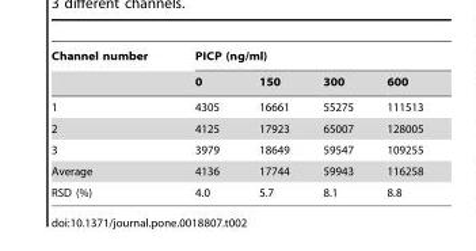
<table><thead><tr><td rowspan="2">Channel number</td><td colspan="4">PICP (ng/ml)</td></tr><tr><td>0</td><td>150</td><td>300</td><td>600</td></tr></thead><tbody><tr><td>1</td><td>4305</td><td>16661</td><td>55275</td><td>111513</td></tr><tr><td>2</td><td>4125</td><td>17923</td><td>65007</td><td>128005</td></tr><tr><td>3</td><td>3979</td><td>18649</td><td>59547</td><td>109255</td></tr><tr><td>Average</td><td>4136</td><td>17744</td><td>59943</td><td>116258</td></tr><tr><td>RSD (%)</td><td>4.0</td><td>5.7</td><td>8.1</td><td>8.8</td></tr></tbody></table>